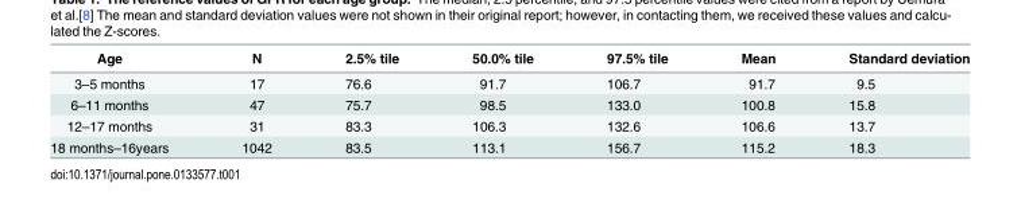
<table><thead><tr><td>Age</td><td>N</td><td>2.5% tile</td><td>50.0% tile</td><td>97.5% tile</td><td>Mean</td><td>Standard deviation</td></tr></thead><tbody><tr><td>3–5 months</td><td>17</td><td>76.6</td><td>91.7</td><td>106.7</td><td>91.7</td><td>9.5</td></tr><tr><td>6–11 months</td><td>47</td><td>75.7</td><td>98.5</td><td>133.0</td><td>100.8</td><td>15.8</td></tr><tr><td>12–17 months</td><td>31</td><td>83.3</td><td>106.3</td><td>132.6</td><td>106.6</td><td>13.7</td></tr><tr><td>18 months–16years</td><td>1042</td><td>83.5</td><td>113.1</td><td>156.7</td><td>115.2</td><td>18.3</td></tr></tbody></table>